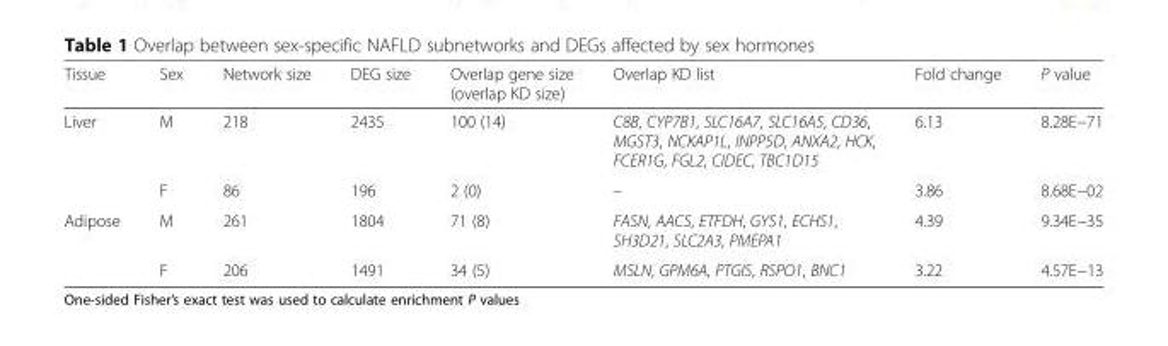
<table><thead><tr><td>Tissue</td><td>Sex</td><td>Network size</td><td>DEG size</td><td>Overlap gene size (overlap KD size)</td><td>Overlap KD list</td><td>Fold change</td><td>P value</td></tr></thead><tbody><tr><td rowspan="2">Liver</td><td>M</td><td>218</td><td>2435</td><td>100 (14)</td><td>C8B, CYP7B1, SLC16A7, SLC16A5, CD36, MGST3, NCKAP1L, INPP5D, ANXA2, HCK, FCER1G, FGL2, CIDEC, TBC1D15</td><td>6.13</td><td>8.28E−71</td></tr><tr><td>F</td><td>86</td><td>196</td><td>2 (0)</td><td>–</td><td>3.86</td><td>8.68E−02</td></tr><tr><td rowspan="2">Adipose</td><td>M</td><td>261</td><td>1804</td><td>71 (8)</td><td>FASN, AACS, ETFDH, GYS1, ECHS1, SH3D21, SLC2A3, PMEPA1</td><td>4.39</td><td>9.34E−35</td></tr><tr><td>F</td><td>206</td><td>1491</td><td>34 (5)</td><td>MSLN, GPM6A, PTGIS, RSPO1, BNC1</td><td>3.22</td><td>4.57E−13</td></tr></tbody></table>